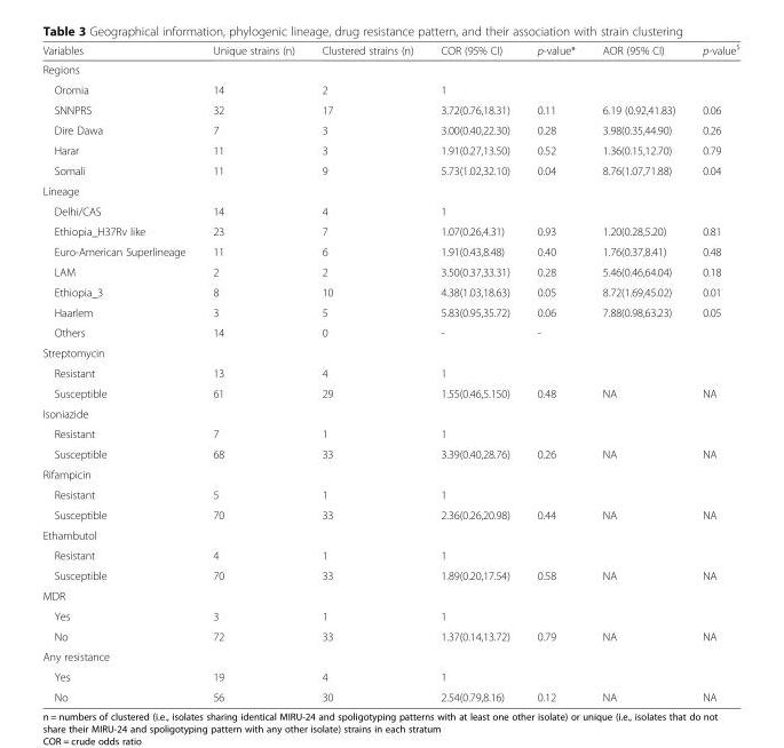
<table><thead><tr><td>Variables</td><td>Unique strains (n)</td><td>Clustered strains (n)</td><td>COR (95% CI)</td><td>p-value*</td><td>AOR (95% CI)</td><td>p-value<sup>$</sup></td></tr></thead><tbody><tr><td colspan="7">Regions</td></tr><tr><td>Oromia</td><td>14</td><td>2</td><td>1</td><td></td><td></td><td></td></tr><tr><td>SNNPRS</td><td>32</td><td>17</td><td>3.72(0.76,18.31)</td><td>0.11</td><td>6.19 (0.92,41.83)</td><td>0.06</td></tr><tr><td>Dire Dawa</td><td>7</td><td>3</td><td>3.00(0.40,22.30)</td><td>0.28</td><td>3.98(0.35,44.90)</td><td>0.26</td></tr><tr><td>Harar</td><td>11</td><td>3</td><td>1.91(0.27,13.50)</td><td>0.52</td><td>1.36(0.15,12.70)</td><td>0.79</td></tr><tr><td>Somali</td><td>11</td><td>9</td><td>5.73(1.02,32.10)</td><td>0.04</td><td>8.76(1.07,71.88)</td><td>0.04</td></tr><tr><td colspan="7">Lineage</td></tr><tr><td>Delhi/CAS</td><td>14</td><td>4</td><td>1</td><td></td><td></td><td></td></tr><tr><td>Ethiopia_H37Rv like</td><td>23</td><td>7</td><td>1.07(0.26,4.31)</td><td>0.93</td><td>1.20(0.28,5.20)</td><td>0.81</td></tr><tr><td>Euro-American Superlineage</td><td>11</td><td>6</td><td>1.91(0.43,8.48)</td><td>0.40</td><td>1.76(0.37,8.41)</td><td>0.48</td></tr><tr><td>LAM</td><td>2</td><td>2</td><td>3.50(0.37,33.31)</td><td>0.28</td><td>5.46(0.46,64.04)</td><td>0.18</td></tr><tr><td>Ethiopia_3</td><td>8</td><td>10</td><td>4.38(1.03,18.63)</td><td>0.05</td><td>8.72(1.69,45.02)</td><td>0.01</td></tr><tr><td>Haarlem</td><td>3</td><td>5</td><td>5.83(0.95,35.72)</td><td>0.06</td><td>7.88(0.98,63.23)</td><td>0.05</td></tr><tr><td>Others</td><td>14</td><td>0</td><td>-</td><td>-</td><td></td><td></td></tr><tr><td colspan="7">Streptomycin</td></tr><tr><td>Resistant</td><td>13</td><td>4</td><td>1</td><td></td><td></td><td></td></tr><tr><td>Susceptible</td><td>61</td><td>29</td><td>1.55(0.46,5.150)</td><td>0.48</td><td>NA</td><td>NA</td></tr><tr><td colspan="7">Isoniazide</td></tr><tr><td>Resistant</td><td>7</td><td>1</td><td>1</td><td></td><td></td><td></td></tr><tr><td>Susceptible</td><td>68</td><td>33</td><td>3.39(0.40,28.76)</td><td>0.26</td><td>NA</td><td>NA</td></tr><tr><td colspan="7">Rifampicin</td></tr><tr><td>Resistant</td><td>5</td><td>1</td><td>1</td><td></td><td></td><td></td></tr><tr><td>Susceptible</td><td>70</td><td>33</td><td>2.36(0.26,20.98)</td><td>0.44</td><td>NA</td><td>NA</td></tr><tr><td colspan="7">Ethambutol</td></tr><tr><td>Resistant</td><td>4</td><td>1</td><td>1</td><td></td><td></td><td></td></tr><tr><td>Susceptible</td><td>70</td><td>33</td><td>1.89(0.20,17.54)</td><td>0.58</td><td>NA</td><td>NA</td></tr><tr><td colspan="7">MDR</td></tr><tr><td>Yes</td><td>3</td><td>1</td><td>1</td><td></td><td></td><td></td></tr><tr><td>No</td><td>72</td><td>33</td><td>1.37(0.14,13.72)</td><td>0.79</td><td>NA</td><td>NA</td></tr><tr><td colspan="7">Any resistance</td></tr><tr><td>Yes</td><td>19</td><td>4</td><td>1</td><td></td><td></td><td></td></tr><tr><td>No</td><td>56</td><td>30</td><td>2.54(0.79,8.16)</td><td>0.12</td><td>NA</td><td>NA</td></tr></tbody></table>